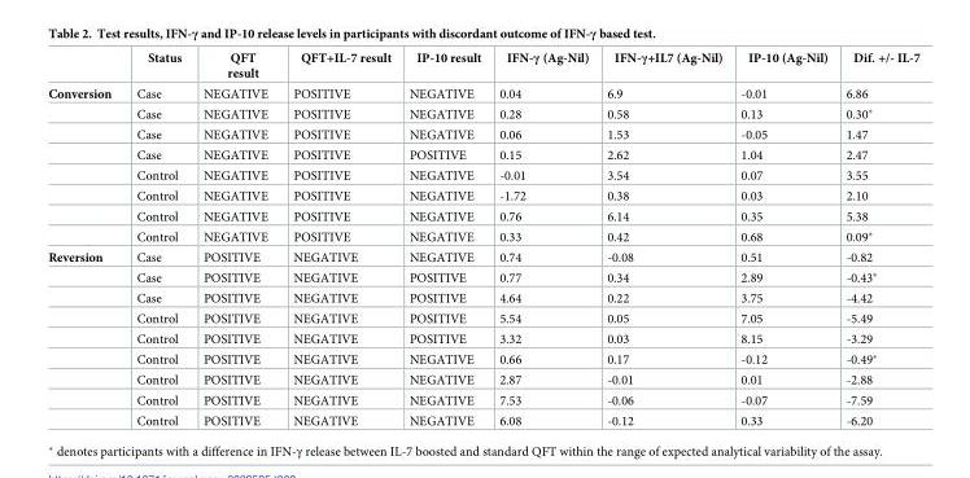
<table><thead><tr><td></td><td>Status</td><td>QFT result</td><td>QFT+IL-7 result</td><td>IP-10 result</td><td>IFN-γ (Ag-Nil)</td><td>IFN-γ+IL7 (Ag-Nil)</td><td>IP-10 (Ag-Nil)</td><td>Dif. +/- IL-7</td></tr></thead><tbody><tr><td rowspan="8">Conversion</td><td>Case</td><td>NEGATIVE</td><td>POSITIVE</td><td>NEGATIVE</td><td>0.04</td><td>6.9</td><td>-0.01</td><td>6.86</td></tr><tr><td>Case</td><td>NEGATIVE</td><td>POSITIVE</td><td>NEGATIVE</td><td>0.28</td><td>0.58</td><td>0.13</td><td>0.30*</td></tr><tr><td>Case</td><td>NEGATIVE</td><td>POSITIVE</td><td>NEGATIVE</td><td>0.06</td><td>1.53</td><td>-0.05</td><td>1.47</td></tr><tr><td>Case</td><td>NEGATIVE</td><td>POSITIVE</td><td>POSITIVE</td><td>0.15</td><td>2.62</td><td>1.04</td><td>2.47</td></tr><tr><td>Control</td><td>NEGATIVE</td><td>POSITIVE</td><td>NEGATIVE</td><td>-0.01</td><td>3.54</td><td>0.07</td><td>3.55</td></tr><tr><td>Control</td><td>NEGATIVE</td><td>POSITIVE</td><td>NEGATIVE</td><td>-1.72</td><td>0.38</td><td>0.03</td><td>2.10</td></tr><tr><td>Control</td><td>NEGATIVE</td><td>POSITIVE</td><td>NEGATIVE</td><td>0.76</td><td>6.14</td><td>0.35</td><td>5.38</td></tr><tr><td>Control</td><td>NEGATIVE</td><td>POSITIVE</td><td>NEGATIVE</td><td>0.33</td><td>0.42</td><td>0.68</td><td>0.09*</td></tr><tr><td rowspan="9">Reversion</td><td>Case</td><td>POSITIVE</td><td>NEGATIVE</td><td>NEGATIVE</td><td>0.74</td><td>-0.08</td><td>0.51</td><td>-0.82</td></tr><tr><td>Case</td><td>POSITIVE</td><td>NEGATIVE</td><td>POSITIVE</td><td>0.77</td><td>0.34</td><td>2.89</td><td>-0.43*</td></tr><tr><td>Case</td><td>POSITIVE</td><td>NEGATIVE</td><td>POSITIVE</td><td>4.64</td><td>0.22</td><td>3.75</td><td>-4.42</td></tr><tr><td>Control</td><td>POSITIVE</td><td>NEGATIVE</td><td>POSITIVE</td><td>5.54</td><td>0.05</td><td>7.05</td><td>-5.49</td></tr><tr><td>Control</td><td>POSITIVE</td><td>NEGATIVE</td><td>POSITIVE</td><td>3.32</td><td>0.03</td><td>8.15</td><td>-3.29</td></tr><tr><td>Control</td><td>POSITIVE</td><td>NEGATIVE</td><td>NEGATIVE</td><td>0.66</td><td>0.17</td><td>-0.12</td><td>-0.49*</td></tr><tr><td>Control</td><td>POSITIVE</td><td>NEGATIVE</td><td>NEGATIVE</td><td>2.87</td><td>-0.01</td><td>0.01</td><td>-2.88</td></tr><tr><td>Control</td><td>POSITIVE</td><td>NEGATIVE</td><td>NEGATIVE</td><td>7.53</td><td>-0.06</td><td>-0.07</td><td>-7.59</td></tr><tr><td>Control</td><td>POSITIVE</td><td>NEGATIVE</td><td>NEGATIVE</td><td>6.08</td><td>-0.12</td><td>0.33</td><td>-6.20</td></tr></tbody></table>